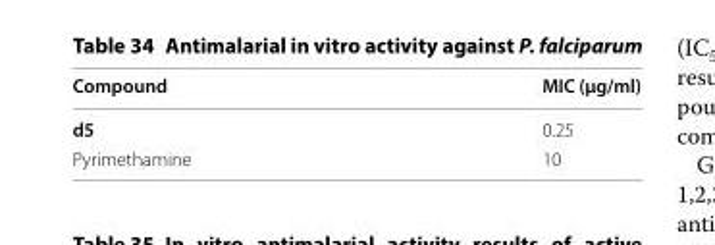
<table><thead><tr><td>Compound</td><td>MIC (µg/ml)</td></tr></thead><tbody><tr><td>d5</td><td>0.25</td></tr><tr><td>Pyrimethamine</td><td>10</td></tr></tbody></table>